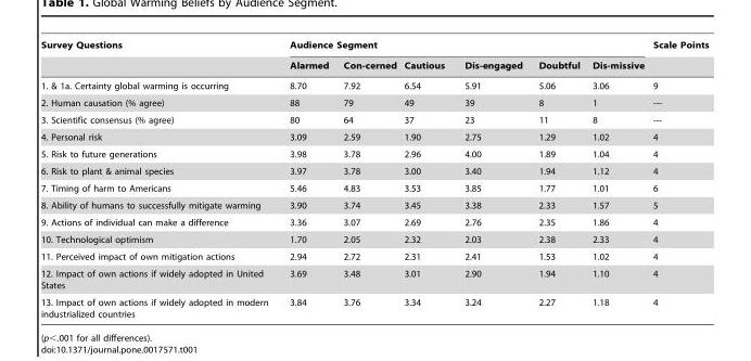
<table><thead><tr><td rowspan="2">Survey Questions</td><td colspan="6">Audience Segment</td><td rowspan="2">Scale Points</td></tr><tr><td>Alarmed</td><td>Con-cerned</td><td>Cautious</td><td>Dis-engaged</td><td>Doubtful</td><td>Dis-missive</td></tr></thead><tbody><tr><td>1. &amp; 1a. Certainty global warming is occurring</td><td>8.70</td><td>7.92</td><td>6.54</td><td>5.91</td><td>5.06</td><td>3.06</td><td>9</td></tr><tr><td>2. Human causation (% agree)</td><td>88</td><td>79</td><td>49</td><td>39</td><td>8</td><td>1</td><td>---</td></tr><tr><td>3. Scientific consensus (% agree)</td><td>80</td><td>64</td><td>37</td><td>23</td><td>11</td><td>8</td><td>---</td></tr><tr><td>4. Personal risk</td><td>3.09</td><td>2.59</td><td>1.90</td><td>2.75</td><td>1.29</td><td>1.02</td><td>4</td></tr><tr><td>5. Risk to future generations</td><td>3.98</td><td>3.78</td><td>2.96</td><td>4.00</td><td>1.89</td><td>1.04</td><td>4</td></tr><tr><td>6. Risk to plant &amp; animal species</td><td>3.97</td><td>3.78</td><td>3.00</td><td>3.40</td><td>1.94</td><td>1.12</td><td>4</td></tr><tr><td>7. Timing of harm to Americans</td><td>5.46</td><td>4.83</td><td>3.53</td><td>3.85</td><td>1.77</td><td>1.01</td><td>6</td></tr><tr><td>8. Ability of humans to successfully mitigate warming</td><td>3.90</td><td>3.74</td><td>3.45</td><td>3.38</td><td>2.33</td><td>1.57</td><td>5</td></tr><tr><td>9. Actions of individual can make a difference</td><td>3.36</td><td>3.07</td><td>2.69</td><td>2.76</td><td>2.35</td><td>1.86</td><td>4</td></tr><tr><td>10. Technological optimism</td><td>1.70</td><td>2.05</td><td>2.32</td><td>2.03</td><td>2.38</td><td>2.33</td><td>4</td></tr><tr><td>11. Perceived impact of own mitigation actions</td><td>2.94</td><td>2.72</td><td>2.31</td><td>2.41</td><td>1.53</td><td>1.02</td><td>4</td></tr><tr><td>12. Impact of own actions if widely adopted in United States</td><td>3.69</td><td>3.48</td><td>3.01</td><td>2.90</td><td>1.94</td><td>1.10</td><td>4</td></tr><tr><td>13. Impact of own actions if widely adopted in modern industrialized countries</td><td>3.84</td><td>3.76</td><td>3.34</td><td>3.24</td><td>2.27</td><td>1.18</td><td>4</td></tr></tbody></table>